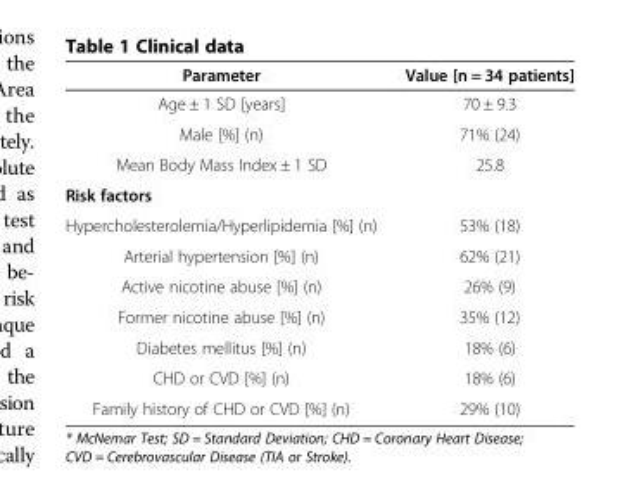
<table><thead><tr><td>Parameter</td><td>Value [n = 34 patients]</td></tr></thead><tbody><tr><td>Age ± 1 SD [years]</td><td>70 ± 9.3</td></tr><tr><td>Male [%] (n)</td><td>71% (24)</td></tr><tr><td>Mean Body Mass Index ± 1 SD</td><td>25.8</td></tr><tr><td colspan="2">Risk factors</td></tr><tr><td>Hypercholesterolemia/Hyperlipidemia [%] (n)</td><td>53% (18)</td></tr><tr><td>Arterial hypertension [%] (n)</td><td>62% (21)</td></tr><tr><td>Active nicotine abuse [%] (n)</td><td>26% (9)</td></tr><tr><td>Former nicotine abuse [%] (n)</td><td>35% (12)</td></tr><tr><td>Diabetes mellitus [%] (n)</td><td>18% (6)</td></tr><tr><td>CHD or CVD [%] (n)</td><td>18% (6)</td></tr><tr><td>Family history of CHD or CVD [%] (n)</td><td>29% (10)</td></tr></tbody></table>